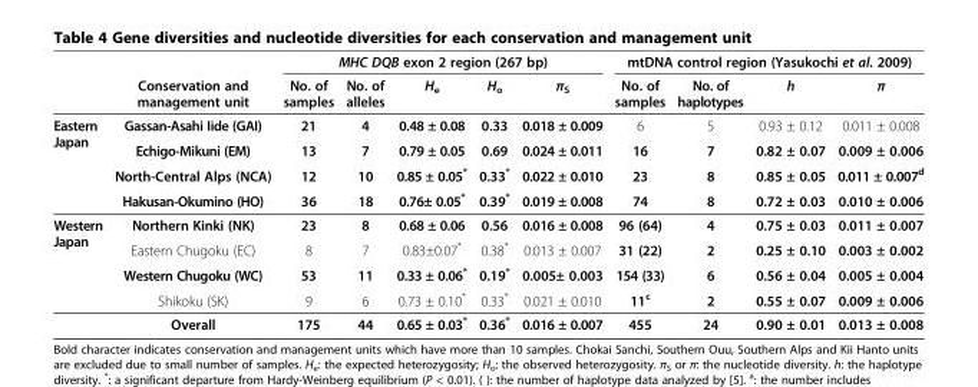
<table><thead><tr><td rowspan="2"></td><td rowspan="2">Conservation and management unit</td><td colspan="5">MHC DQB exon 2 region (267 bp)</td><td colspan="4">mtDNA control region (Yasukochi et al. 2009)</td></tr><tr><td>No. of samples</td><td>No. of alleles</td><td>H<sub>e</sub></td><td>H<sub>o</sub></td><td>π<sub>S</sub></td><td>No. of samples</td><td>No. of haplotypes</td><td>h</td><td>π</td></tr></thead><tbody><tr><td rowspan="4">Eastern Japan</td><td>Gassan-Asahi Iide (GAI)</td><td>21</td><td>4</td><td>0.48 ± 0.08</td><td>0.33</td><td>0.018 ± 0.009</td><td>6</td><td>5</td><td>0.93 ± 0.12</td><td>0.011 ± 0.008</td></tr><tr><td>Echigo-Mikuni (EM)</td><td>13</td><td>7</td><td>0.79 ± 0.05</td><td>0.69</td><td>0.024 ± 0.011</td><td>16</td><td>7</td><td>0.82 ± 0.07</td><td>0.009 ± 0.006</td></tr><tr><td>North-Central Alps (NCA)</td><td>12</td><td>10</td><td>0.85 ± 0.05*</td><td>0.33*</td><td>0.022 ± 0.010</td><td>23</td><td>8</td><td>0.85 ± 0.05</td><td>0.011 ± 0.007<sup>d</sup></td></tr><tr><td>Hakusan-Okumino (HO)</td><td>36</td><td>18</td><td>0.76± 0.05*</td><td>0.39*</td><td>0.019 ± 0.008</td><td>74</td><td>8</td><td>0.72 ± 0.03</td><td>0.010 ± 0.006</td></tr><tr><td rowspan="5">Western Japan</td><td>Northern Kinki (NK)</td><td>23</td><td>8</td><td>0.68 ± 0.06</td><td>0.56</td><td>0.016 ± 0.008</td><td>96 (64)</td><td>4</td><td>0.75 ± 0.03</td><td>0.011 ± 0.007</td></tr><tr><td>Eastern Chugoku (EC)</td><td>8</td><td>7</td><td>0.83±0.07*</td><td>0.38*</td><td>0.013 ± 0.007</td><td>31 (22)</td><td>2</td><td>0.25 ± 0.10</td><td>0.003 ± 0.002</td></tr><tr><td>Western Chugoku (WC)</td><td>53</td><td>11</td><td>0.33 ± 0.06*</td><td>0.19*</td><td>0.005± 0.003</td><td>154 (33)</td><td>6</td><td>0.56 ± 0.04</td><td>0.005 ± 0.004</td></tr><tr><td>Shikoku (SK)</td><td>9</td><td>6</td><td>0.73 ± 0.10*</td><td>0.33*</td><td>0.021 ± 0.010</td><td>11<sup>c</sup></td><td>2</td><td>0.55 ± 0.07</td><td>0.009 ± 0.006</td></tr><tr><td>Overall</td><td>175</td><td>44</td><td>0.65 ± 0.03*</td><td>0.36*</td><td>0.016 ± 0.007</td><td>455</td><td>24</td><td>0.90 ± 0.01</td><td>0.013 ± 0.008</td></tr></tbody></table>